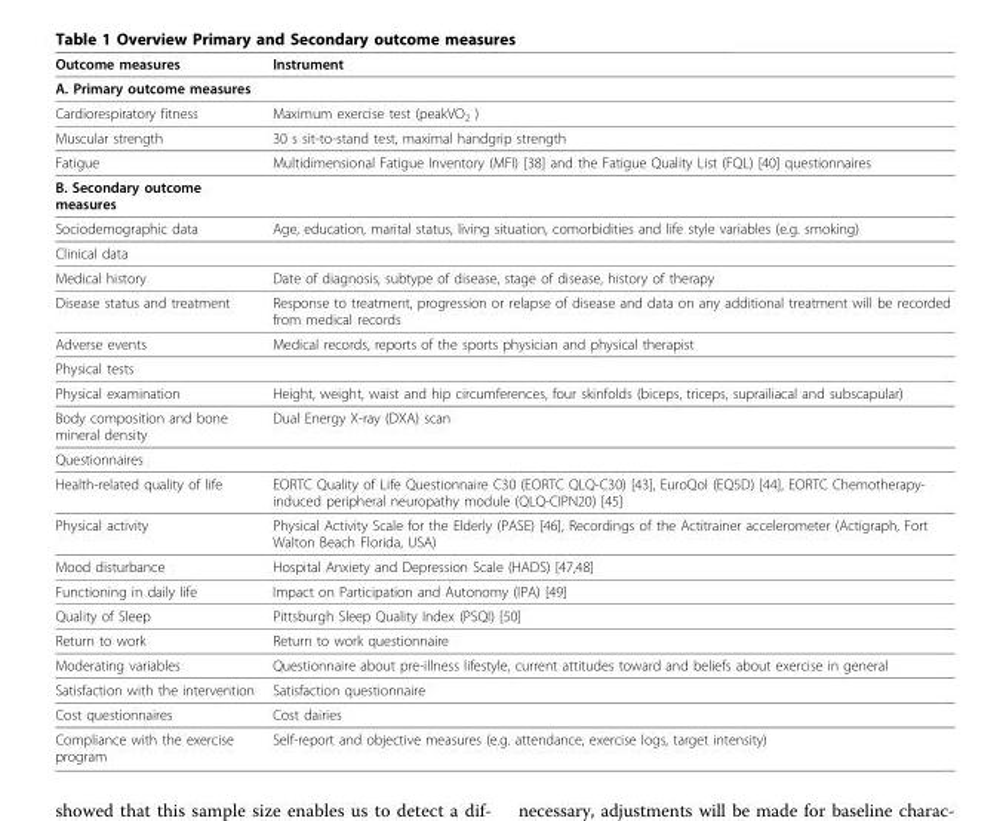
<table><thead><tr><td>Outcome measures</td><td>Instrument</td></tr></thead><tbody><tr><td colspan="2">A. Primary outcome measures</td></tr><tr><td>Cardiorespiratory fitness</td><td>Maximum exercise test (peakVO<sub>2</sub> )</td></tr><tr><td>Muscular strength</td><td>30 s sit-to-stand test, maximal handgrip strength</td></tr><tr><td>Fatigue</td><td>Multidimensional Fatigue Inventory (MFI) [38] and the Fatigue Quality List (FQL) [40] questionnaires</td></tr><tr><td colspan="2">B. Secondary outcome measures</td></tr><tr><td>Sociodemographic data</td><td>Age, education, marital status, living situation, comorbidities and life style variables (e.g. smoking)</td></tr><tr><td colspan="2">Clinical data</td></tr><tr><td>Medical history</td><td>Date of diagnosis, subtype of disease, stage of disease, history of therapy</td></tr><tr><td>Disease status and treatment</td><td>Response to treatment, progression or relapse of disease and data on any additional treatment will be recorded from medical records</td></tr><tr><td>Adverse events</td><td>Medical records, reports of the sports physician and physical therapist</td></tr><tr><td colspan="2">Physical tests</td></tr><tr><td>Physical examination</td><td>Height, weight, waist and hip circumferences, four skinfolds (biceps, triceps, suprailiacal and subscapular)</td></tr><tr><td>Body composition and bone mineral density</td><td>Dual Energy X-ray (DXA) scan</td></tr><tr><td colspan="2">Questionnaires</td></tr><tr><td>Health-related quality of life</td><td>EORTC Quality of Life Questionnaire C30 (EORTC QLQ-C30) [43], EuroQol (EQ5D) [44], EORTC Chemotherapy- induced peripheral neuropathy module (QLQ-CIPN20) [45]</td></tr><tr><td>Physical activity</td><td>Physical Activity Scale for the Elderly (PASE) [46], Recordings of the Actitrainer accelerometer (Actigraph, Fort Walton Beach Florida, USA)</td></tr><tr><td>Mood disturbance</td><td>Hospital Anxiety and Depression Scale (HADS) [47,48]</td></tr><tr><td>Functioning in daily life</td><td>Impact on Participation and Autonomy (IPA) [49]</td></tr><tr><td>Quality of Sleep</td><td>Pittsburgh Sleep Quality Index (PSQI) [50]</td></tr><tr><td>Return to work</td><td>Return to work questionnaire</td></tr><tr><td>Moderating variables</td><td>Questionnaire about pre-illness lifestyle, current attitudes toward and beliefs about exercise in general</td></tr><tr><td>Satisfaction with the intervention</td><td>Satisfaction questionnaire</td></tr><tr><td>Cost questionnaires</td><td>Cost dairies</td></tr><tr><td>Compliance with the exercise program</td><td>Self-report and objective measures (e.g. attendance, exercise logs, target intensity)</td></tr></tbody></table>